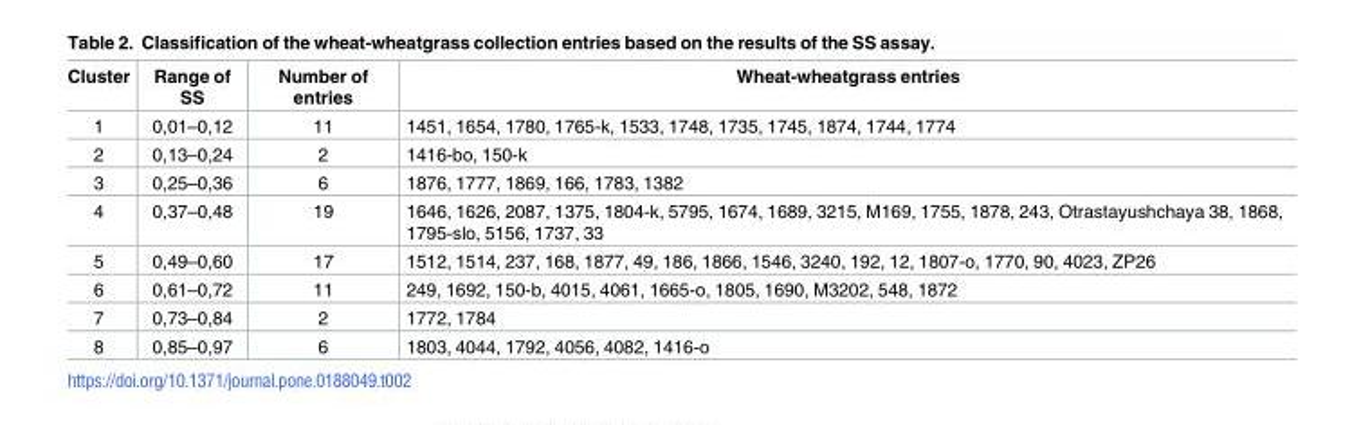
<table><thead><tr><td>Cluster</td><td>Range of SS</td><td>Number of entries</td><td>Wheat-wheatgrass entries</td></tr></thead><tbody><tr><td>1</td><td>0,01–0,12</td><td>11</td><td>1451, 1654, 1780, 1765-k, 1533, 1748, 1735, 1745, 1874, 1744, 1774</td></tr><tr><td>2</td><td>0,13–0,24</td><td>2</td><td>1416-bo, 150-k</td></tr><tr><td>3</td><td>0,25–0,36</td><td>6</td><td>1876, 1777, 1869, 166, 1783, 1382</td></tr><tr><td>4</td><td>0,37–0,48</td><td>19</td><td>1646, 1626, 2087, 1375, 1804-k, 5795, 1674, 1689, 3215, M169, 1755, 1878, 243, Otrastayushchaya 38, 1868, 1795-slo, 5156, 1737, 33</td></tr><tr><td>5</td><td>0,49–0,60</td><td>17</td><td>1512, 1514, 237, 168, 1877, 49, 186, 1866, 1546, 3240, 192, 12, 1807-o, 1770, 90, 4023, ZP26</td></tr><tr><td>6</td><td>0,61–0,72</td><td>11</td><td>249, 1692, 150-b, 4015, 4061, 1665-o, 1805, 1690, M3202, 548, 1872</td></tr><tr><td>7</td><td>0,73–0,84</td><td>2</td><td>1772, 1784</td></tr><tr><td>8</td><td>0,85–0,97</td><td>6</td><td>1803, 4044, 1792, 4056, 4082, 1416-o</td></tr></tbody></table>